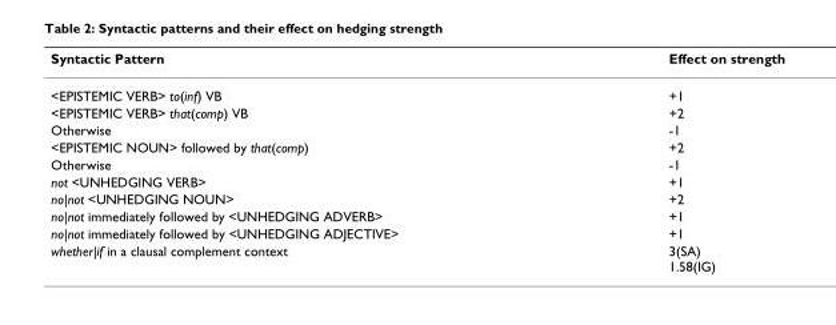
<table><thead><tr><td>Syntactic Pattern</td><td>Effect on strength</td></tr></thead><tbody><tr><td>&lt;EPISTEMIC VERB&gt; to(inf) VB</td><td>+1</td></tr><tr><td>&lt;EPISTEMIC VERB&gt; that(comp) VB</td><td>+2</td></tr><tr><td>Otherwise</td><td>-1</td></tr><tr><td>&lt;EPISTEMIC NOUN&gt; followed by that(comp)</td><td>+2</td></tr><tr><td>Otherwise</td><td>-1</td></tr><tr><td>not &lt;UNHEDGING VERB&gt;</td><td>+1</td></tr><tr><td>no|not &lt;UNHEDGING NOUN&gt;</td><td>+2</td></tr><tr><td>no|not immediately followed by &lt;UNHEDGING ADVERB&gt;</td><td>+1</td></tr><tr><td>no|not immediately followed by &lt;UNHEDGING ADJECTIVE&gt;</td><td>+1</td></tr><tr><td>whether|if in a clausal complement context</td><td>3(SA) 1.58(IG)</td></tr></tbody></table>